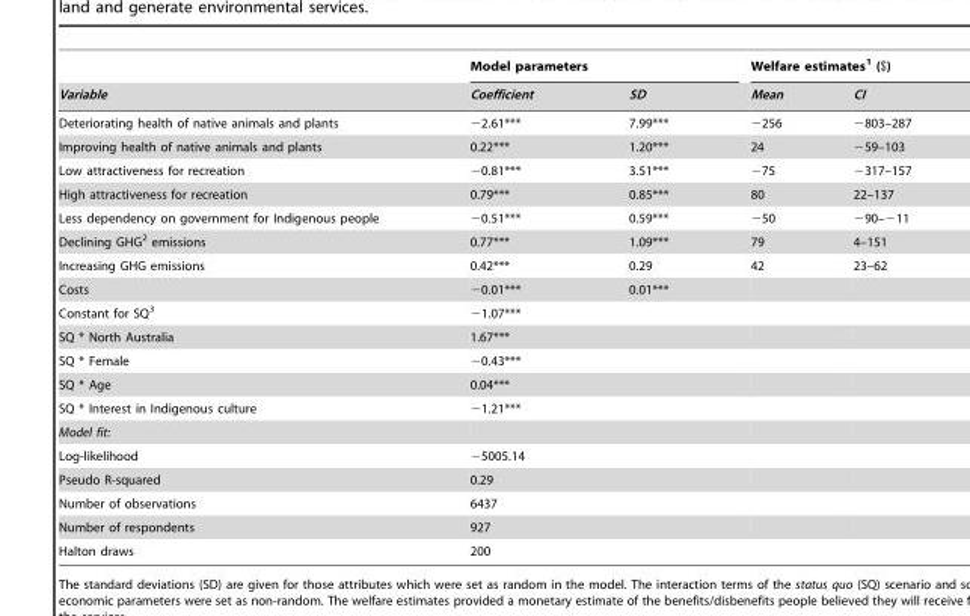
<table><thead><tr><td rowspan="2">Variable</td><td colspan="2">Model parameters</td><td colspan="2">Welfare estimates<sup>1</sup> ($)</td></tr><tr><td>Coefficient</td><td>SD</td><td>Mean</td><td>CI</td></tr></thead><tbody><tr><td>Deteriorating health of native animals and plants</td><td>−2.61***</td><td>7.99***</td><td>−256</td><td>−803–287</td></tr><tr><td>Improving health of native animals and plants</td><td>0.22***</td><td>1.20***</td><td>24</td><td>−59–103</td></tr><tr><td>Low attractiveness for recreation</td><td>−0.81***</td><td>3.51***</td><td>−75</td><td>−317–157</td></tr><tr><td>High attractiveness for recreation</td><td>0.79***</td><td>0.85***</td><td>80</td><td>22–137</td></tr><tr><td>Less dependency on government for Indigenous people</td><td>−0.51***</td><td>0.59***</td><td>−50</td><td>−90–−11</td></tr><tr><td>Declining GHG<sup>2</sup> emissions</td><td>0.77***</td><td>1.09***</td><td>79</td><td>4–151</td></tr><tr><td>Increasing GHG emissions</td><td>0.42***</td><td>0.29</td><td>42</td><td>23–62</td></tr><tr><td>Costs</td><td>−0.01***</td><td>0.01***</td><td></td><td></td></tr><tr><td>Constant for SQ<sup>3</sup></td><td>−1.07***</td><td></td><td></td><td></td></tr><tr><td>SQ * North Australia</td><td>1.67***</td><td></td><td></td><td></td></tr><tr><td>SQ * Female</td><td>−0.43***</td><td></td><td></td><td></td></tr><tr><td>SQ * Age</td><td>0.04***</td><td></td><td></td><td></td></tr><tr><td>SQ * Interest in Indigenous culture</td><td>−1.21***</td><td></td><td></td><td></td></tr><tr><td colspan="5">Model fit:</td></tr><tr><td>Log-likelihood</td><td colspan="2">−5005.14</td><td></td><td></td></tr><tr><td>Pseudo R-squared</td><td colspan="2">0.29</td><td></td><td></td></tr><tr><td>Number of observations</td><td colspan="2">6437</td><td></td><td></td></tr><tr><td>Number of respondents</td><td colspan="2">927</td><td></td><td></td></tr><tr><td>Halton draws</td><td colspan="2">200</td><td></td><td></td></tr></tbody></table>